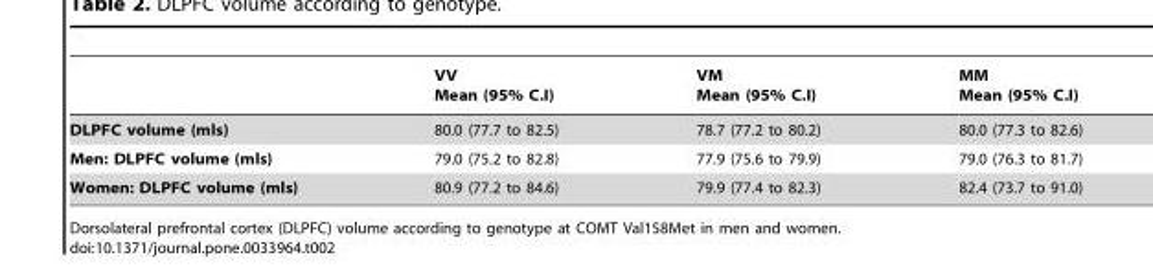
<table><thead><tr><td></td><td>VV Mean (95% C.I)</td><td>VM Mean (95% C.I)</td><td>MM Mean (95% C.I)</td></tr></thead><tbody><tr><td>DLPFC volume (mls)</td><td>80.0 (77.7 to 82.5)</td><td>78.7 (77.2 to 80.2)</td><td>80.0 (77.3 to 82.6)</td></tr><tr><td>Men: DLPFC volume (mls)</td><td>79.0 (75.2 to 82.8)</td><td>77.9 (75.6 to 79.9)</td><td>79.0 (76.3 to 81.7)</td></tr><tr><td>Women: DLPFC volume (mls)</td><td>80.9 (77.2 to 84.6)</td><td>79.9 (77.4 to 82.3)</td><td>82.4 (73.7 to 91.0)</td></tr></tbody></table>